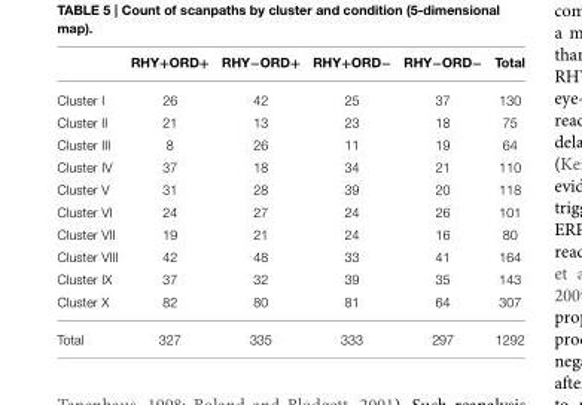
<table><thead><tr><td></td><td>RHY+ORD+</td><td>RHY−ORD+</td><td>RHY+ORD−</td><td>RHY−ORD−</td><td>Total</td></tr></thead><tbody><tr><td>Cluster I</td><td>26</td><td>42</td><td>25</td><td>37</td><td>130</td></tr><tr><td>Cluster II</td><td>21</td><td>13</td><td>23</td><td>18</td><td>75</td></tr><tr><td>Cluster III</td><td>8</td><td>26</td><td>11</td><td>19</td><td>64</td></tr><tr><td>Cluster IV</td><td>37</td><td>18</td><td>34</td><td>21</td><td>110</td></tr><tr><td>Cluster V</td><td>31</td><td>28</td><td>39</td><td>20</td><td>118</td></tr><tr><td>Cluster VI</td><td>24</td><td>27</td><td>24</td><td>26</td><td>101</td></tr><tr><td>Cluster VII</td><td>19</td><td>21</td><td>24</td><td>16</td><td>80</td></tr><tr><td>Cluster VIII</td><td>42</td><td>48</td><td>33</td><td>41</td><td>164</td></tr><tr><td>Cluster IX</td><td>37</td><td>32</td><td>39</td><td>35</td><td>143</td></tr><tr><td>Cluster X</td><td>82</td><td>80</td><td>81</td><td>64</td><td>307</td></tr><tr><td>Total</td><td>327</td><td>335</td><td>333</td><td>297</td><td>1292</td></tr></tbody></table>